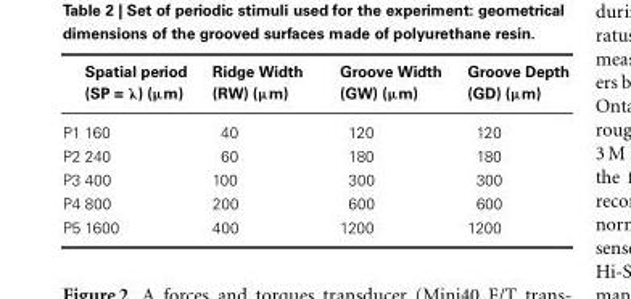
<table><thead><tr><td></td><td>Spatial period (SP = λ) (μm)</td><td>Ridge Width (RW) (μm)</td><td>Groove Width (GW) (μm)</td><td>Groove Depth (GD) (μm)</td></tr></thead><tbody><tr><td>P1</td><td>160</td><td>40</td><td>120</td><td>120</td></tr><tr><td>P2</td><td>240</td><td>60</td><td>180</td><td>180</td></tr><tr><td>P3</td><td>400</td><td>100</td><td>300</td><td>300</td></tr><tr><td>P4</td><td>800</td><td>200</td><td>600</td><td>600</td></tr><tr><td>P5</td><td>1600</td><td>400</td><td>1200</td><td>1200</td></tr></tbody></table>